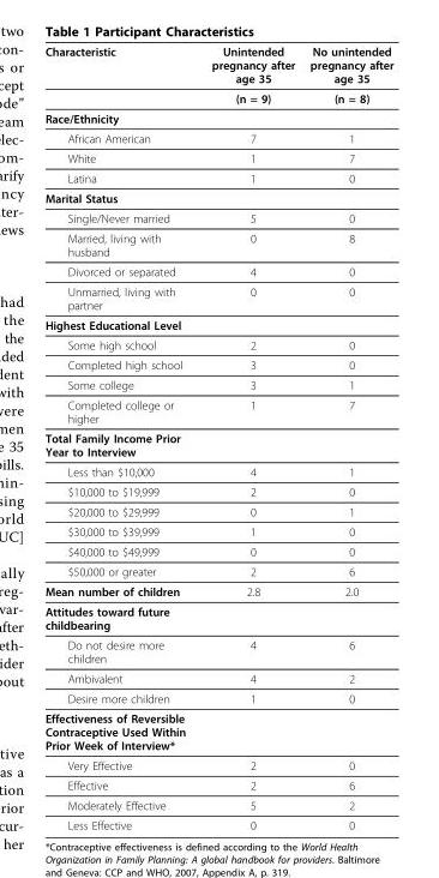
<table><thead><tr><td>Characteristic</td><td>Unintended pregnancy after age 35</td><td>No unintended pregnancy after age 35</td></tr></thead><tbody><tr><td></td><td>(n = 9)</td><td>(n = 8)</td></tr><tr><td colspan="3">Race/Ethnicity</td></tr><tr><td>African American</td><td>7</td><td>1</td></tr><tr><td>White</td><td>1</td><td>7</td></tr><tr><td>Latina</td><td>1</td><td>0</td></tr><tr><td colspan="3">Marital Status</td></tr><tr><td>Single/Never married</td><td>5</td><td>0</td></tr><tr><td>Married, living with husband</td><td>0</td><td>8</td></tr><tr><td>Divorced or separated</td><td>4</td><td>0</td></tr><tr><td>Unmarried, living with partner</td><td>0</td><td>0</td></tr><tr><td colspan="3">Highest Educational Level</td></tr><tr><td>Some high school</td><td>2</td><td>0</td></tr><tr><td>Completed high school</td><td>3</td><td>0</td></tr><tr><td>Some college</td><td>3</td><td>1</td></tr><tr><td>Completed college or higher</td><td>1</td><td>7</td></tr><tr><td colspan="3">Total Family Income Prior Year to Interview</td></tr><tr><td>Less than $10,000</td><td>4</td><td>1</td></tr><tr><td>$10,000 to $19,999</td><td>2</td><td>0</td></tr><tr><td>$20,000 to $29,999</td><td>0</td><td>1</td></tr><tr><td>$30,000 to $39,999</td><td>1</td><td>0</td></tr><tr><td>$40,000 to $49,999</td><td>0</td><td>0</td></tr><tr><td>$50,000 or greater</td><td>2</td><td>6</td></tr><tr><td>Mean number of children</td><td>2.8</td><td>2.0</td></tr><tr><td colspan="3">Attitudes toward future childbearing</td></tr><tr><td>Do not desire more children</td><td>4</td><td>6</td></tr><tr><td>Ambivalent</td><td>4</td><td>2</td></tr><tr><td>Desire more children</td><td>1</td><td>0</td></tr><tr><td colspan="3">Effectiveness of Reversible Contraceptive Used Within Prior Week of Interview*</td></tr><tr><td>Very Effective</td><td>2</td><td>0</td></tr><tr><td>Effective</td><td>2</td><td>6</td></tr><tr><td>Moderately Effective</td><td>5</td><td>2</td></tr><tr><td>Less Effective</td><td>0</td><td>0</td></tr></tbody></table>